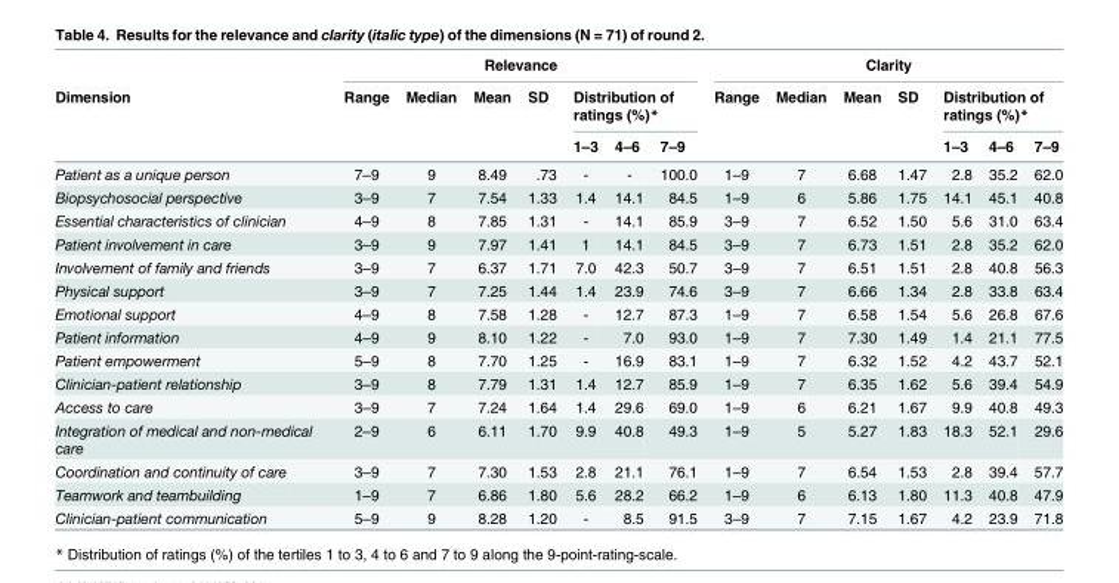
<table><thead><tr><td rowspan="3">Dimension</td><td colspan="7">Relevance</td><td colspan="7">Clarity</td></tr><tr><td rowspan="2">Range</td><td rowspan="2">Median</td><td rowspan="2">Mean</td><td rowspan="2">SD</td><td colspan="3">Distribution of ratings (%)*</td><td rowspan="2">Range</td><td rowspan="2">Median</td><td rowspan="2">Mean</td><td rowspan="2">SD</td><td colspan="3">Distribution of ratings (%)*</td></tr><tr><td>1–3</td><td>4–6</td><td>7–9</td><td>1–3</td><td>4–6</td><td>7–9</td></tr></thead><tbody><tr><td>Patient as a unique person</td><td>7–9</td><td>9</td><td>8.49</td><td>.73</td><td>-</td><td>-</td><td>100.0</td><td>1–9</td><td>7</td><td>6.68</td><td>1.47</td><td>2.8</td><td>35.2</td><td>62.0</td></tr><tr><td>Biopsychosocial perspective</td><td>3–9</td><td>7</td><td>7.54</td><td>1.33</td><td>1.4</td><td>14.1</td><td>84.5</td><td>1–9</td><td>6</td><td>5.86</td><td>1.75</td><td>14.1</td><td>45.1</td><td>40.8</td></tr><tr><td>Essential characteristics of clinician</td><td>4–9</td><td>8</td><td>7.85</td><td>1.31</td><td>-</td><td>14.1</td><td>85.9</td><td>3–9</td><td>7</td><td>6.52</td><td>1.50</td><td>5.6</td><td>31.0</td><td>63.4</td></tr><tr><td>Patient involvement in care</td><td>3–9</td><td>9</td><td>7.97</td><td>1.41</td><td>1</td><td>14.1</td><td>84.5</td><td>3–9</td><td>7</td><td>6.73</td><td>1.51</td><td>2.8</td><td>35.2</td><td>62.0</td></tr><tr><td>Involvement of family and friends</td><td>3–9</td><td>7</td><td>6.37</td><td>1.71</td><td>7.0</td><td>42.3</td><td>50.7</td><td>3–9</td><td>7</td><td>6.51</td><td>1.51</td><td>2.8</td><td>40.8</td><td>56.3</td></tr><tr><td>Physical support</td><td>3–9</td><td>7</td><td>7.25</td><td>1.44</td><td>1.4</td><td>23.9</td><td>74.6</td><td>3–9</td><td>7</td><td>6.66</td><td>1.34</td><td>2.8</td><td>33.8</td><td>63.4</td></tr><tr><td>Emotional support</td><td>4–9</td><td>8</td><td>7.58</td><td>1.28</td><td>-</td><td>12.7</td><td>87.3</td><td>1–9</td><td>7</td><td>6.58</td><td>1.54</td><td>5.6</td><td>26.8</td><td>67.6</td></tr><tr><td>Patient information</td><td>4–9</td><td>9</td><td>8.10</td><td>1.22</td><td>-</td><td>7.0</td><td>93.0</td><td>1–9</td><td>7</td><td>7.30</td><td>1.49</td><td>1.4</td><td>21.1</td><td>77.5</td></tr><tr><td>Patient empowerment</td><td>5–9</td><td>8</td><td>7.70</td><td>1.25</td><td>-</td><td>16.9</td><td>83.1</td><td>1–9</td><td>7</td><td>6.32</td><td>1.52</td><td>4.2</td><td>43.7</td><td>52.1</td></tr><tr><td>Clinician-patient relationship</td><td>3–9</td><td>8</td><td>7.79</td><td>1.31</td><td>1.4</td><td>12.7</td><td>85.9</td><td>1–9</td><td>7</td><td>6.35</td><td>1.62</td><td>5.6</td><td>39.4</td><td>54.9</td></tr><tr><td>Access to care</td><td>3–9</td><td>7</td><td>7.24</td><td>1.64</td><td>1.4</td><td>29.6</td><td>69.0</td><td>1–9</td><td>6</td><td>6.21</td><td>1.67</td><td>9.9</td><td>40.8</td><td>49.3</td></tr><tr><td>Integration of medical and non-medical care</td><td>2–9</td><td>6</td><td>6.11</td><td>1.70</td><td>9.9</td><td>40.8</td><td>49.3</td><td>1–9</td><td>5</td><td>5.27</td><td>1.83</td><td>18.3</td><td>52.1</td><td>29.6</td></tr><tr><td>Coordination and continuity of care</td><td>3–9</td><td>7</td><td>7.30</td><td>1.53</td><td>2.8</td><td>21.1</td><td>76.1</td><td>1–9</td><td>7</td><td>6.54</td><td>1.53</td><td>2.8</td><td>39.4</td><td>57.7</td></tr><tr><td>Teamwork and teambuilding</td><td>1–9</td><td>7</td><td>6.86</td><td>1.80</td><td>5.6</td><td>28.2</td><td>66.2</td><td>1–9</td><td>6</td><td>6.13</td><td>1.80</td><td>11.3</td><td>40.8</td><td>47.9</td></tr><tr><td>Clinician-patient communication</td><td>5–9</td><td>9</td><td>8.28</td><td>1.20</td><td>-</td><td>8.5</td><td>91.5</td><td>3–9</td><td>7</td><td>7.15</td><td>1.67</td><td>4.2</td><td>23.9</td><td>71.8</td></tr></tbody></table>